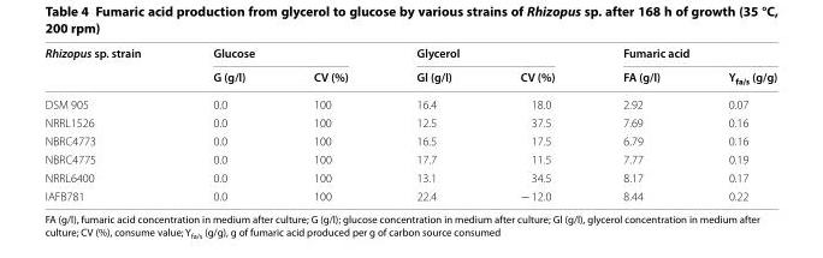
<table><thead><tr><td rowspan="2">Rhizopus sp. strain</td><td colspan="2">Glucose</td><td colspan="2">Glycerol</td><td colspan="2">Fumaric acid</td></tr><tr><td>G (g/l)</td><td>CV (%)</td><td>Gl (g/l)</td><td>CV (%)</td><td>FA (g/l)</td><td>Y<sub>fa/s</sub> (g/g)</td></tr></thead><tbody><tr><td>DSM 905</td><td>0.0</td><td>100</td><td>16.4</td><td>18.0</td><td>2.92</td><td>0.07</td></tr><tr><td>NRRL1526</td><td>0.0</td><td>100</td><td>12.5</td><td>37.5</td><td>7.69</td><td>0.16</td></tr><tr><td>NBRC4773</td><td>0.0</td><td>100</td><td>16.5</td><td>17.5</td><td>6.79</td><td>0.16</td></tr><tr><td>NBRC4775</td><td>0.0</td><td>100</td><td>17.7</td><td>11.5</td><td>7.77</td><td>0.19</td></tr><tr><td>NRRL6400</td><td>0.0</td><td>100</td><td>13.1</td><td>34.5</td><td>8.17</td><td>0.17</td></tr><tr><td>IAFB781</td><td>0.0</td><td>100</td><td>22.4</td><td>− 12.0</td><td>8.44</td><td>0.22</td></tr></tbody></table>